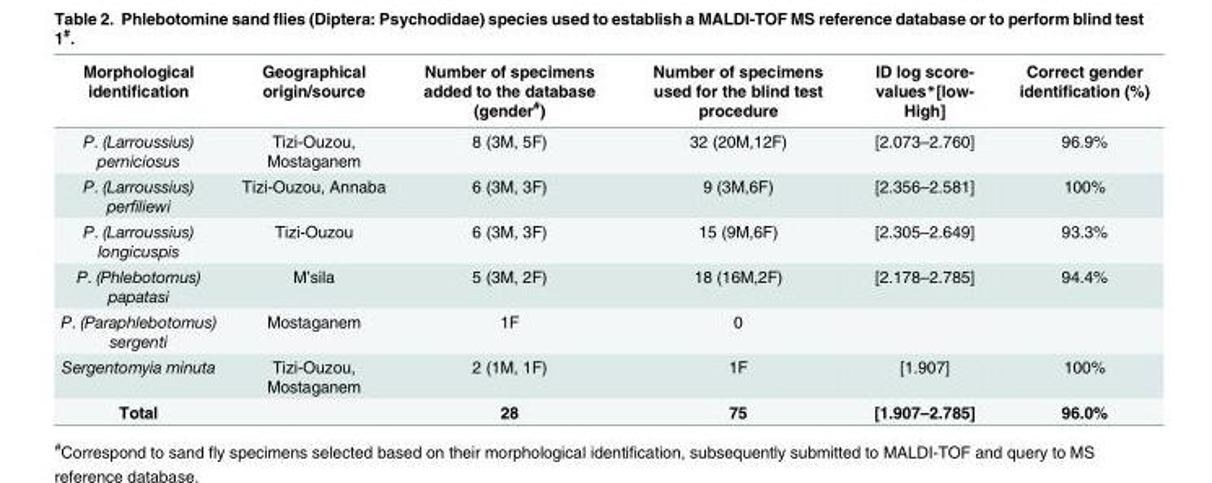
<table><thead><tr><td>Morphological identification</td><td>Geographical origin/source</td><td>Number of specimens added to the database (gender<sup>#</sup>)</td><td>Number of specimens used for the blind test procedure</td><td>ID log score- values*[low- High]</td><td>Correct gender identification (%)</td></tr></thead><tbody><tr><td>P. (Larroussius) perniciosus</td><td>Tizi-Ouzou, Mostaganem</td><td>8 (3M, 5F)</td><td>32 (20M,12F)</td><td>[2.073–2.760]</td><td>96.9%</td></tr><tr><td>P. (Larroussius) perfiliewi</td><td>Tizi-Ouzou, Annaba</td><td>6 (3M, 3F)</td><td>9 (3M,6F)</td><td>[2.356–2.581]</td><td>100%</td></tr><tr><td>P. (Larroussius) longicuspis</td><td>Tizi-Ouzou</td><td>6 (3M, 3F)</td><td>15 (9M,6F)</td><td>[2.305–2.649]</td><td>93.3%</td></tr><tr><td>P. (Phlebotomus) papatasi</td><td>M’sila</td><td>5 (3M, 2F)</td><td>18 (16M,2F)</td><td>[2.178–2.785]</td><td>94.4%</td></tr><tr><td>P. (Paraphlebotomus) sergenti</td><td>Mostaganem</td><td>1F</td><td>0</td><td></td><td></td></tr><tr><td>Sergentomyia minuta</td><td>Tizi-Ouzou, Mostaganem</td><td>2 (1M, 1F)</td><td>1F</td><td>[1.907]</td><td>100%</td></tr><tr><td>Total</td><td></td><td>28</td><td>75</td><td>[1.907–2.785]</td><td>96.0%</td></tr></tbody></table>